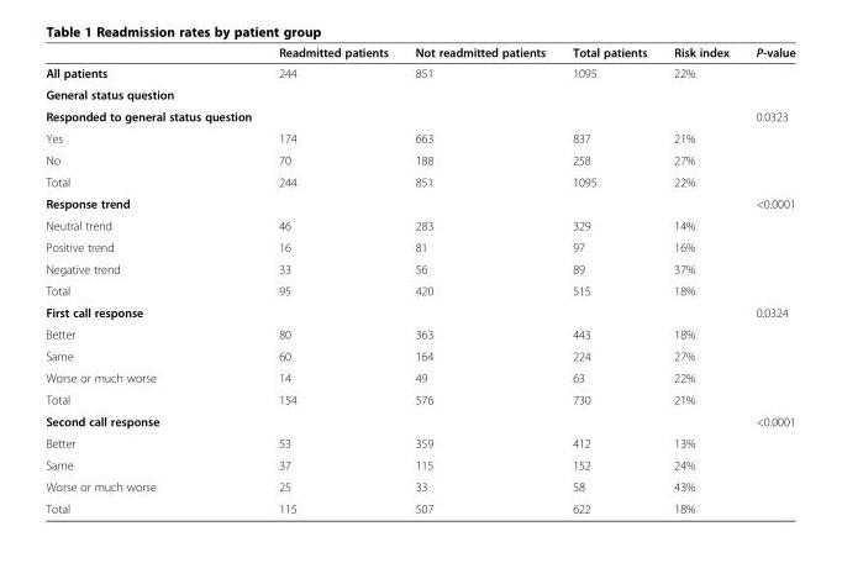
<table><thead><tr><td></td><td>Readmitted patients</td><td>Not readmitted patients</td><td>Total patients</td><td>Risk index</td><td>P-value</td></tr></thead><tbody><tr><td>All patients</td><td>244</td><td>851</td><td>1095</td><td>22%</td><td></td></tr><tr><td colspan="6">General status question</td></tr><tr><td>Responded to general status question</td><td></td><td></td><td></td><td></td><td>0.0323</td></tr><tr><td>Yes</td><td>174</td><td>663</td><td>837</td><td>21%</td><td></td></tr><tr><td>No</td><td>70</td><td>188</td><td>258</td><td>27%</td><td></td></tr><tr><td>Total</td><td>244</td><td>851</td><td>1095</td><td>22%</td><td></td></tr><tr><td>Response trend</td><td></td><td></td><td></td><td></td><td>&lt;0.0001</td></tr><tr><td>Neutral trend</td><td>46</td><td>283</td><td>329</td><td>14%</td><td></td></tr><tr><td>Positive trend</td><td>16</td><td>81</td><td>97</td><td>16%</td><td></td></tr><tr><td>Negative trend</td><td>33</td><td>56</td><td>89</td><td>37%</td><td></td></tr><tr><td>Total</td><td>95</td><td>420</td><td>515</td><td>18%</td><td></td></tr><tr><td>First call response</td><td></td><td></td><td></td><td></td><td>0.0324</td></tr><tr><td>Better</td><td>80</td><td>363</td><td>443</td><td>18%</td><td></td></tr><tr><td>Same</td><td>60</td><td>164</td><td>224</td><td>27%</td><td></td></tr><tr><td>Worse or much worse</td><td>14</td><td>49</td><td>63</td><td>22%</td><td></td></tr><tr><td>Total</td><td>154</td><td>576</td><td>730</td><td>21%</td><td></td></tr><tr><td>Second call response</td><td></td><td></td><td></td><td></td><td>&lt;0.0001</td></tr><tr><td>Better</td><td>53</td><td>359</td><td>412</td><td>13%</td><td></td></tr><tr><td>Same</td><td>37</td><td>115</td><td>152</td><td>24%</td><td></td></tr><tr><td>Worse or much worse</td><td>25</td><td>33</td><td>58</td><td>43%</td><td></td></tr><tr><td>Total</td><td>115</td><td>507</td><td>622</td><td>18%</td><td></td></tr></tbody></table>